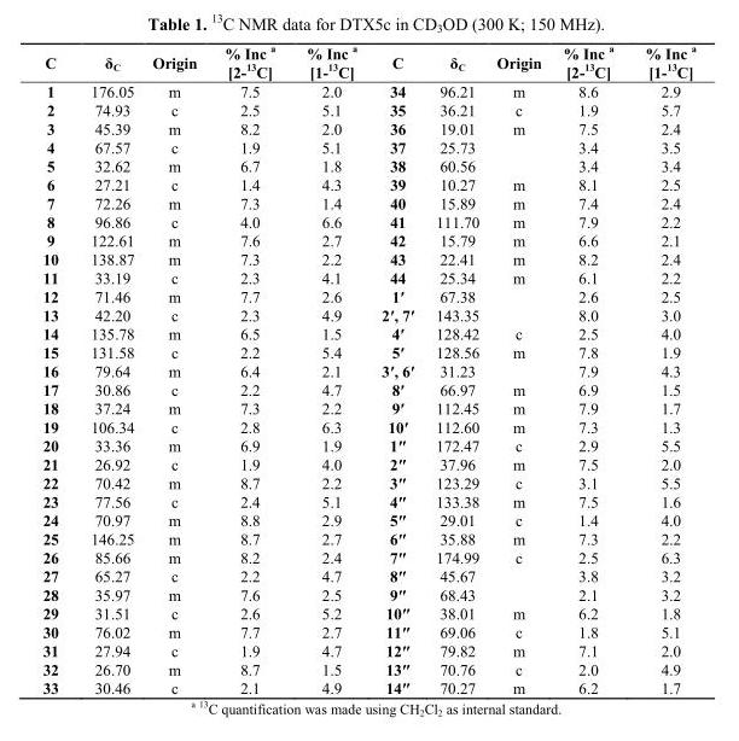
<table><thead><tr><td>C</td><td>δ<sub>C</sub></td><td>Origin</td><td>% Inc a [2-<sup>13</sup>C]</td><td>% Inc a [1-<sup>13</sup>C]</td><td>C</td><td>δC</td><td>Origin</td><td>% Inc a [2-<sup>13</sup>C]</td><td>% Inc a [1-<sup>13</sup>C]</td></tr></thead><tbody><tr><td>1</td><td>176.05</td><td>m</td><td>7.5</td><td>2.0</td><td>34</td><td>96.21</td><td>m</td><td>8.6</td><td>2.9</td></tr><tr><td>2</td><td>74.93</td><td>c</td><td>2.5</td><td>5.1</td><td>35</td><td>36.21</td><td>c</td><td>1.9</td><td>5.7</td></tr><tr><td>3</td><td>45.39</td><td>m</td><td>8.2</td><td>2.0</td><td>36</td><td>19.01</td><td>m</td><td>7.5</td><td>2.4</td></tr><tr><td>4</td><td>67.57</td><td>c</td><td>1.9</td><td>5.1</td><td>37</td><td>25.73</td><td></td><td>3.4</td><td>3.5</td></tr><tr><td>5</td><td>32.62</td><td>m</td><td>6.7</td><td>1.8</td><td>38</td><td>60.56</td><td></td><td>3.4</td><td>3.4</td></tr><tr><td>6</td><td>27.21</td><td>c</td><td>1.4</td><td>4.3</td><td>39</td><td>10.27</td><td>m</td><td>8.1</td><td>2.5</td></tr><tr><td>7</td><td>72.26</td><td>m</td><td>7.3</td><td>1.4</td><td>40</td><td>15.89</td><td>m</td><td>7.4</td><td>2.4</td></tr><tr><td>8</td><td>96.86</td><td>c</td><td>4.0</td><td>6.6</td><td>41</td><td>111.70</td><td>m</td><td>7.9</td><td>2.2</td></tr><tr><td>9</td><td>122.61</td><td>m</td><td>7.6</td><td>2.7</td><td>42</td><td>15.79</td><td>m</td><td>6.6</td><td>2.1</td></tr><tr><td>10</td><td>138.87</td><td>m</td><td>7.3</td><td>2.2</td><td>43</td><td>22.41</td><td>m</td><td>8.2</td><td>2.4</td></tr><tr><td>11</td><td>33.19</td><td>c</td><td>2.3</td><td>4.1</td><td>44</td><td>25.34</td><td>m</td><td>6.1</td><td>2.2</td></tr><tr><td>12</td><td>71.46</td><td>m</td><td>7.7</td><td>2.6</td><td>1′</td><td>67.38</td><td></td><td>2.6</td><td>2.5</td></tr><tr><td>13</td><td>42.20</td><td>c</td><td>2.3</td><td>4.9</td><td>2′, 7′</td><td>143.35</td><td></td><td>8.0</td><td>3.0</td></tr><tr><td>14</td><td>135.78</td><td>m</td><td>6.5</td><td>1.5</td><td>4′</td><td>128.42</td><td>c</td><td>2.5</td><td>4.0</td></tr><tr><td>15</td><td>131.58</td><td>c</td><td>2.2</td><td>5.4</td><td>5′</td><td>128.56</td><td>m</td><td>7.8</td><td>1.9</td></tr><tr><td>16</td><td>79.64</td><td>m</td><td>6.4</td><td>2.1</td><td>3′, 6′</td><td>31.23</td><td></td><td>7.9</td><td>4.3</td></tr><tr><td>17</td><td>30.86</td><td>c</td><td>2.2</td><td>4.7</td><td>8′</td><td>66.97</td><td>m</td><td>6.9</td><td>1.5</td></tr><tr><td>18</td><td>37.24</td><td>m</td><td>7.3</td><td>2.2</td><td>9′</td><td>112.45</td><td>m</td><td>7.9</td><td>1.7</td></tr><tr><td>19</td><td>106.34</td><td>c</td><td>2.8</td><td>6.3</td><td>10′</td><td>112.60</td><td>m</td><td>7.3</td><td>1.3</td></tr><tr><td>20</td><td>33.36</td><td>m</td><td>6.9</td><td>1.9</td><td>1″</td><td>172.47</td><td>c</td><td>2.9</td><td>5.5</td></tr><tr><td>21</td><td>26.92</td><td>c</td><td>1.9</td><td>4.0</td><td>2″</td><td>37.96</td><td>m</td><td>7.5</td><td>2.0</td></tr><tr><td>22</td><td>70.42</td><td>m</td><td>8.7</td><td>2.2</td><td>3″</td><td>123.29</td><td>c</td><td>3.1</td><td>5.5</td></tr><tr><td>23</td><td>77.56</td><td>c</td><td>2.4</td><td>5.1</td><td>4″</td><td>133.38</td><td>m</td><td>7.5</td><td>1.6</td></tr><tr><td>24</td><td>70.97</td><td>m</td><td>8.8</td><td>2.9</td><td>5″</td><td>29.01</td><td>c</td><td>1.4</td><td>4.0</td></tr><tr><td>25</td><td>146.25</td><td>m</td><td>8.7</td><td>2.7</td><td>6″</td><td>35.88</td><td>m</td><td>7.3</td><td>2.2</td></tr><tr><td>26</td><td>85.66</td><td>m</td><td>8.2</td><td>2.4</td><td>7″</td><td>174.99</td><td>c</td><td>2.5</td><td>6.3</td></tr><tr><td>27</td><td>65.27</td><td>c</td><td>2.2</td><td>4.7</td><td>8″</td><td>45.67</td><td></td><td>3.8</td><td>3.2</td></tr><tr><td>28</td><td>35.97</td><td>m</td><td>7.6</td><td>2.5</td><td>9″</td><td>68.43</td><td></td><td>2.1</td><td>3.2</td></tr><tr><td>29</td><td>31.51</td><td>c</td><td>2.6</td><td>5.2</td><td>10″</td><td>38.01</td><td>m</td><td>6.2</td><td>1.8</td></tr><tr><td>30</td><td>76.02</td><td>m</td><td>7.7</td><td>2.7</td><td>11″</td><td>69.06</td><td>c</td><td>1.8</td><td>5.1</td></tr><tr><td>31</td><td>27.94</td><td>c</td><td>1.9</td><td>4.7</td><td>12″</td><td>79.82</td><td>m</td><td>7.1</td><td>2.0</td></tr><tr><td>32</td><td>26.70</td><td>m</td><td>8.7</td><td>1.5</td><td>13″</td><td>70.76</td><td>c</td><td>2.0</td><td>4.9</td></tr><tr><td>33</td><td>30.46</td><td>c</td><td>2.1</td><td>4.9</td><td>14″</td><td>70.27</td><td>m</td><td>6.2</td><td>1.7</td></tr></tbody></table>